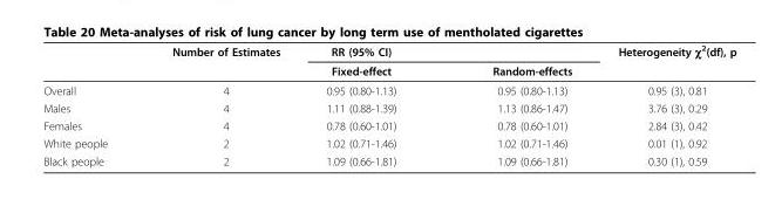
<table><thead><tr><td rowspan="2"></td><td rowspan="2">Number of Estimates</td><td rowspan="2">RR (95% CI) Fixed-effect</td><td rowspan="2">Random-effects</td><td rowspan="2">Heterogeneity χ<sup>2</sup>(df), p</td></tr><tr></tr></thead><tbody><tr><td>Overall</td><td>4</td><td>0.95 (0.80-1.13)</td><td>0.95 (0.80-1.13)</td><td>0.95 (3), 0.81</td></tr><tr><td>Males</td><td>4</td><td>1.11 (0.88-1.39)</td><td>1.13 (0.86-1.47)</td><td>3.76 (3), 0.29</td></tr><tr><td>Females</td><td>4</td><td>0.78 (0.60-1.01)</td><td>0.78 (0.60-1.01)</td><td>2.84 (3), 0.42</td></tr><tr><td>White people</td><td>2</td><td>1.02 (0.71-1.46)</td><td>1.02 (0.71-1.46)</td><td>0.01 (1), 0.92</td></tr><tr><td>Black people</td><td>2</td><td>1.09 (0.66-1.81)</td><td>1.09 (0.66-1.81)</td><td>0.30 (1), 0.59</td></tr></tbody></table>